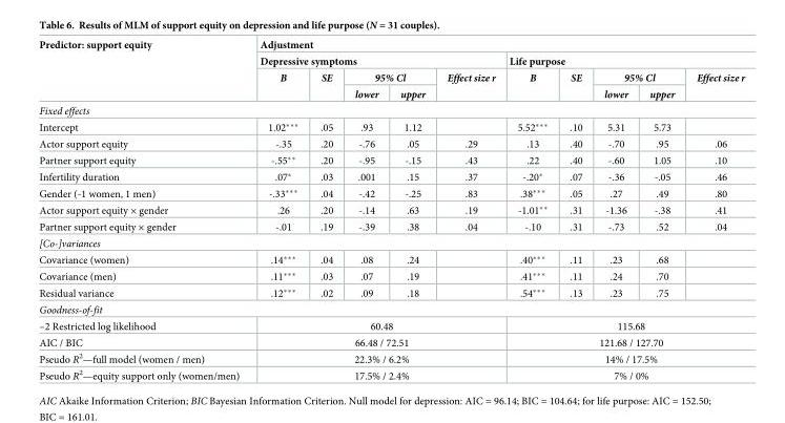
<table><thead><tr><td rowspan="4">Predictor: support equity</td><td colspan="10">Adjustment</td></tr><tr><td colspan="5">Depressive symptoms</td><td colspan="5">Life purpose</td></tr><tr><td rowspan="2">B</td><td rowspan="2">SE</td><td colspan="2">95% Cl</td><td rowspan="2">Effect size r</td><td rowspan="2">B</td><td rowspan="2">SE</td><td colspan="2">95% Cl</td><td rowspan="2">Effect size r</td></tr><tr><td>lower</td><td>upper</td><td>lower</td><td>upper</td></tr></thead><tbody><tr><td colspan="11">Fixed effects</td></tr><tr><td>Intercept</td><td>1.02***</td><td>.05</td><td>.93</td><td>1.12</td><td></td><td>5.52***</td><td>.10</td><td>5.31</td><td>5.73</td><td></td></tr><tr><td>Actor support equity</td><td>-.35</td><td>.20</td><td>-.76</td><td>.05</td><td>.29</td><td>.13</td><td>.40</td><td>-.70</td><td>.95</td><td>.06</td></tr><tr><td>Partner support equity</td><td>-.55**</td><td>.20</td><td>-.95</td><td>-.15</td><td>.43</td><td>.22</td><td>.40</td><td>-.60</td><td>1.05</td><td>.10</td></tr><tr><td>Infertility duration</td><td>.07*</td><td>.03</td><td>.001</td><td>.15</td><td>.37</td><td>-.20*</td><td>.07</td><td>-.36</td><td>-.05</td><td>.46</td></tr><tr><td>Gender (-1 women, 1 men)</td><td>-.33***</td><td>.04</td><td>-.42</td><td>-.25</td><td>.83</td><td>.38***</td><td>.05</td><td>.27</td><td>.49</td><td>.80</td></tr><tr><td>Actor support equity × gender</td><td>.26</td><td>.20</td><td>-.14</td><td>.63</td><td>.19</td><td>-1.01**</td><td>.31</td><td>-1.36</td><td>-.38</td><td>.41</td></tr><tr><td>Partner support equity × gender</td><td>-.01</td><td>.19</td><td>-.39</td><td>.38</td><td>.04</td><td>-.10</td><td>.31</td><td>-.73</td><td>.52</td><td>.04</td></tr><tr><td colspan="11">[Co-]variances</td></tr><tr><td>Covariance (women)</td><td>.14***</td><td>.04</td><td>.08</td><td>.24</td><td></td><td>.40***</td><td>.11</td><td>.23</td><td>.68</td><td></td></tr><tr><td>Covariance (men)</td><td>.11***</td><td>.03</td><td>.07</td><td>.19</td><td></td><td>.41***</td><td>.11</td><td>.24</td><td>.70</td><td></td></tr><tr><td>Residual variance</td><td>.12***</td><td>.02</td><td>.09</td><td>.18</td><td></td><td>.54***</td><td>.13</td><td>.23</td><td>.75</td><td></td></tr><tr><td colspan="11">Goodness-of-fit</td></tr><tr><td>–2 Restricted log likelihood</td><td colspan="5">60.48</td><td colspan="5">115.68</td></tr><tr><td>AIC / BIC</td><td colspan="5">66.48 / 72.51</td><td colspan="5">121.68 / 127.70</td></tr><tr><td>Pseudo R<sup>2</sup>—full model (women / men)</td><td colspan="5">22.3% / 6.2%</td><td colspan="5">14% / 17.5%</td></tr><tr><td>Pseudo R<sup>2</sup>—equity support only (women/men)</td><td colspan="5">17.5% / 2.4%</td><td colspan="5">7% / 0%</td></tr></tbody></table>